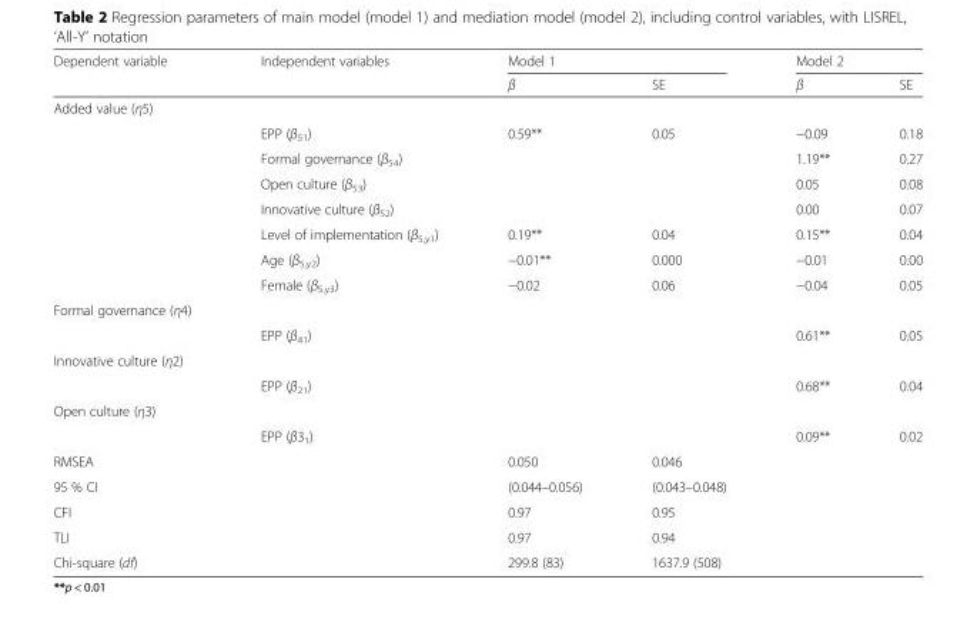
<table><thead><tr><td rowspan="2">Dependent variable</td><td rowspan="2">Independent variables</td><td colspan="2">Model 1</td><td colspan="2">Model 2</td></tr><tr><td>β</td><td>SE</td><td>β</td><td>SE</td></tr></thead><tbody><tr><td colspan="6">Added value (η5)</td></tr><tr><td></td><td>EPP (β<sub>51</sub>)</td><td>0.59**</td><td>0.05</td><td>−0.09</td><td>0.18</td></tr><tr><td></td><td>Formal governance (β<sub>54</sub>)</td><td></td><td></td><td>1.19**</td><td>0.27</td></tr><tr><td></td><td>Open culture (β<sub>53</sub>)</td><td></td><td></td><td>0.05</td><td>0.08</td></tr><tr><td></td><td>Innovative culture (β<sub>52</sub>)</td><td></td><td></td><td>0.00</td><td>0.07</td></tr><tr><td></td><td>Level of implementation (β<sub>5,y1</sub>)</td><td>0.19**</td><td>0.04</td><td>0.15**</td><td>0.04</td></tr><tr><td></td><td>Age (β<sub>5,y2</sub>)</td><td>−0.01**</td><td>0.000</td><td>−0.01</td><td>0.00</td></tr><tr><td></td><td>Female (β<sub>5,y3</sub>)</td><td>−0.02</td><td>0.06</td><td>−0.04</td><td>0.05</td></tr><tr><td colspan="6">Formal governance (η4)</td></tr><tr><td></td><td>EPP (β<sub>41</sub>)</td><td></td><td></td><td>0.61**</td><td>0.05</td></tr><tr><td colspan="6">Innovative culture (η2)</td></tr><tr><td></td><td>EPP (β<sub>21</sub>)</td><td></td><td></td><td>0.68**</td><td>0.04</td></tr><tr><td colspan="6">Open culture (η3)</td></tr><tr><td></td><td>EPP (β3<sub>1</sub>)</td><td></td><td></td><td>0.09**</td><td>0.02</td></tr><tr><td>RMSEA</td><td></td><td>0.050</td><td>0.046</td><td></td><td></td></tr><tr><td>95 % CI</td><td></td><td>(0.044–0.056)</td><td>(0.043–0.048)</td><td></td><td></td></tr><tr><td>CFI</td><td></td><td>0.97</td><td>0.95</td><td></td><td></td></tr><tr><td>TLI</td><td></td><td>0.97</td><td>0.94</td><td></td><td></td></tr><tr><td>Chi-square (df)</td><td></td><td>299.8 (83)</td><td>1637.9 (508)</td><td></td><td></td></tr></tbody></table>